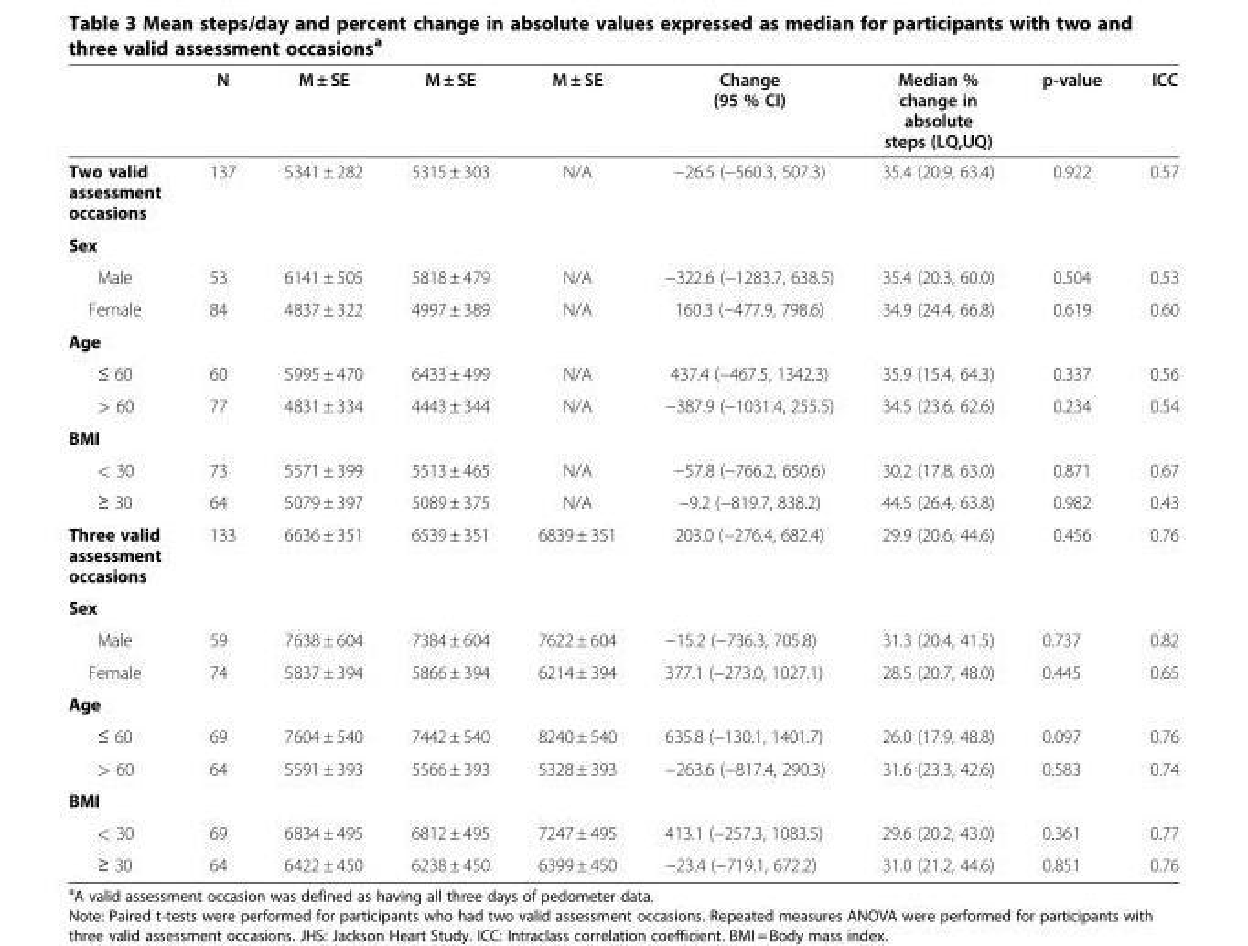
<table><thead><tr><td></td><td>N</td><td>M ± SE</td><td>M ± SE</td><td>M ± SE</td><td>Change (95 % CI)</td><td>Median % change in absolute steps (LQ,UQ)</td><td>p-value</td><td>ICC</td></tr></thead><tbody><tr><td>Two valid assessment occasions</td><td>137</td><td>5341 ± 282</td><td>5315 ± 303</td><td>N/A</td><td>−26.5 (−560.3, 507.3)</td><td>35.4 (20.9, 63.4)</td><td>0.922</td><td>0.57</td></tr><tr><td colspan="9">Sex</td></tr><tr><td>Male</td><td>53</td><td>6141 ± 505</td><td>5818 ± 479</td><td>N/A</td><td>−322.6 (−1283.7, 638.5)</td><td>35.4 (20.3, 60.0)</td><td>0.504</td><td>0.53</td></tr><tr><td>Female</td><td>84</td><td>4837 ± 322</td><td>4997 ± 389</td><td>N/A</td><td>160.3 (−477.9, 798.6)</td><td>34.9 (24.4, 66.8)</td><td>0.619</td><td>0.60</td></tr><tr><td colspan="9">Age</td></tr><tr><td>≤ 60</td><td>60</td><td>5995 ± 470</td><td>6433 ± 499</td><td>N/A</td><td>437.4 (−467.5, 1342.3)</td><td>35.9 (15.4, 64.3)</td><td>0.337</td><td>0.56</td></tr><tr><td>&gt; 60</td><td>77</td><td>4831 ± 334</td><td>4443 ± 344</td><td>N/A</td><td>−387.9 (−1031.4, 255.5)</td><td>34.5 (23.6, 62.6)</td><td>0.234</td><td>0.54</td></tr><tr><td colspan="9">BMI</td></tr><tr><td>&lt; 30</td><td>73</td><td>5571 ± 399</td><td>5513 ± 465</td><td>N/A</td><td>−57.8 (−766.2, 650.6)</td><td>30.2 (17.8, 63.0)</td><td>0.871</td><td>0.67</td></tr><tr><td>≥ 30</td><td>64</td><td>5079 ± 397</td><td>5089 ± 375</td><td>N/A</td><td>−9.2 (−819.7, 838.2)</td><td>44.5 (26.4, 63.8)</td><td>0.982</td><td>0.43</td></tr><tr><td>Three valid assessment occasions</td><td>133</td><td>6636 ± 351</td><td>6539 ± 351</td><td>6839 ± 351</td><td>203.0 (−276.4, 682.4)</td><td>29.9 (20.6, 44.6)</td><td>0.456</td><td>0.76</td></tr><tr><td colspan="9">Sex</td></tr><tr><td>Male</td><td>59</td><td>7638 ± 604</td><td>7384 ± 604</td><td>7622 ± 604</td><td>−15.2 (−736.3, 705.8)</td><td>31.3 (20.4, 41.5)</td><td>0.737</td><td>0.82</td></tr><tr><td>Female</td><td>74</td><td>5837 ± 394</td><td>5866 ± 394</td><td>6214 ± 394</td><td>377.1 (−273.0, 1027.1)</td><td>28.5 (20.7, 48.0)</td><td>0.445</td><td>0.65</td></tr><tr><td colspan="9">Age</td></tr><tr><td>≤ 60</td><td>69</td><td>7604 ± 540</td><td>7442 ± 540</td><td>8240 ± 540</td><td>635.8 (−130.1, 1401.7)</td><td>26.0 (17.9, 48.8)</td><td>0.097</td><td>0.76</td></tr><tr><td>&gt; 60</td><td>64</td><td>5591 ± 393</td><td>5566 ± 393</td><td>5328 ± 393</td><td>−263.6 (−817.4, 290.3)</td><td>31.6 (23.3, 42.6)</td><td>0.583</td><td>0.74</td></tr><tr><td colspan="9">BMI</td></tr><tr><td>&lt; 30</td><td>69</td><td>6834 ± 495</td><td>6812 ± 495</td><td>7247 ± 495</td><td>413.1 (−257.3, 1083.5)</td><td>29.6 (20.2, 43.0)</td><td>0.361</td><td>0.77</td></tr><tr><td>≥ 30</td><td>64</td><td>6422 ± 450</td><td>6238 ± 450</td><td>6399 ± 450</td><td>−23.4 (−719.1, 672.2)</td><td>31.0 (21.2, 44.6)</td><td>0.851</td><td>0.76</td></tr></tbody></table>